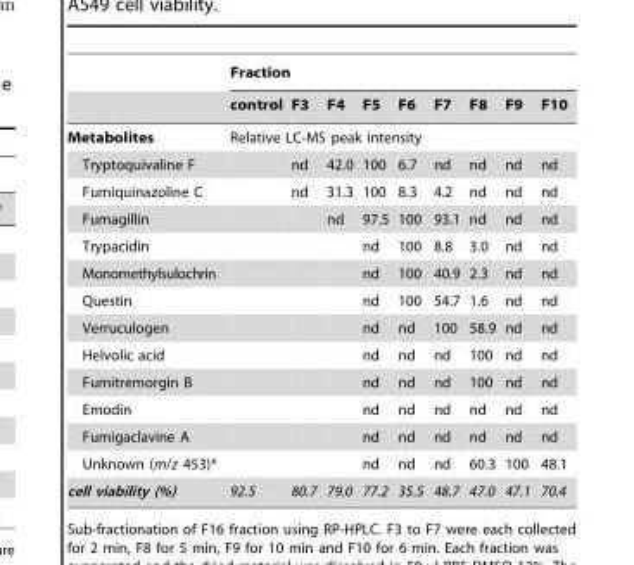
<table><thead><tr><td rowspan="2"></td><td colspan="9">Fraction</td></tr><tr><td>control</td><td>F3</td><td>F4</td><td>F5</td><td>F6</td><td>F7</td><td>F8</td><td>F9</td><td>F10</td></tr></thead><tbody><tr><td>Metabolites</td><td colspan="9">Relative LC-MS peak intensity</td></tr><tr><td>Tryptoquivaline F</td><td></td><td>nd</td><td>42.0</td><td>100</td><td>6.7</td><td>nd</td><td>nd</td><td>nd</td><td>nd</td></tr><tr><td>Fumiquinazoline C</td><td></td><td>nd</td><td>31.3</td><td>100</td><td>8.3</td><td>4.2</td><td>nd</td><td>nd</td><td>nd</td></tr><tr><td>Fumagillin</td><td></td><td></td><td>nd</td><td>97.5</td><td>100</td><td>93.1</td><td>nd</td><td>nd</td><td>nd</td></tr><tr><td>Trypacidin</td><td></td><td></td><td></td><td>nd</td><td>100</td><td>8.8</td><td>3.0</td><td>nd</td><td>nd</td></tr><tr><td>Monomethylsulochrin</td><td></td><td></td><td></td><td>nd</td><td>100</td><td>40.9</td><td>2.3</td><td>nd</td><td>nd</td></tr><tr><td>Questin</td><td></td><td></td><td></td><td>nd</td><td>100</td><td>54.7</td><td>1.6</td><td>nd</td><td>nd</td></tr><tr><td>Verruculogen</td><td></td><td></td><td></td><td>nd</td><td>nd</td><td>100</td><td>58.9</td><td>nd</td><td>nd</td></tr><tr><td>Helvolic acid</td><td></td><td></td><td></td><td>nd</td><td>nd</td><td>nd</td><td>100</td><td>nd</td><td>nd</td></tr><tr><td>Fumitremorgin B</td><td></td><td></td><td></td><td>nd</td><td>nd</td><td>nd</td><td>100</td><td>nd</td><td>nd</td></tr><tr><td>Emodin</td><td></td><td></td><td></td><td>nd</td><td>nd</td><td>nd</td><td>nd</td><td>nd</td><td>nd</td></tr><tr><td>Fumigaclavine A</td><td></td><td></td><td></td><td>nd</td><td>nd</td><td>nd</td><td>nd</td><td>nd</td><td>nd</td></tr><tr><td>Unknown (m/z 453)*</td><td></td><td></td><td></td><td>nd</td><td>nd</td><td>nd</td><td>60.3</td><td>100</td><td>48.1</td></tr><tr><td>cell viability (%)</td><td>92.5</td><td>80.7</td><td>79.0</td><td>77.2</td><td>35.5</td><td>48.7</td><td>47.0</td><td>47.1</td><td>70.4</td></tr></tbody></table>